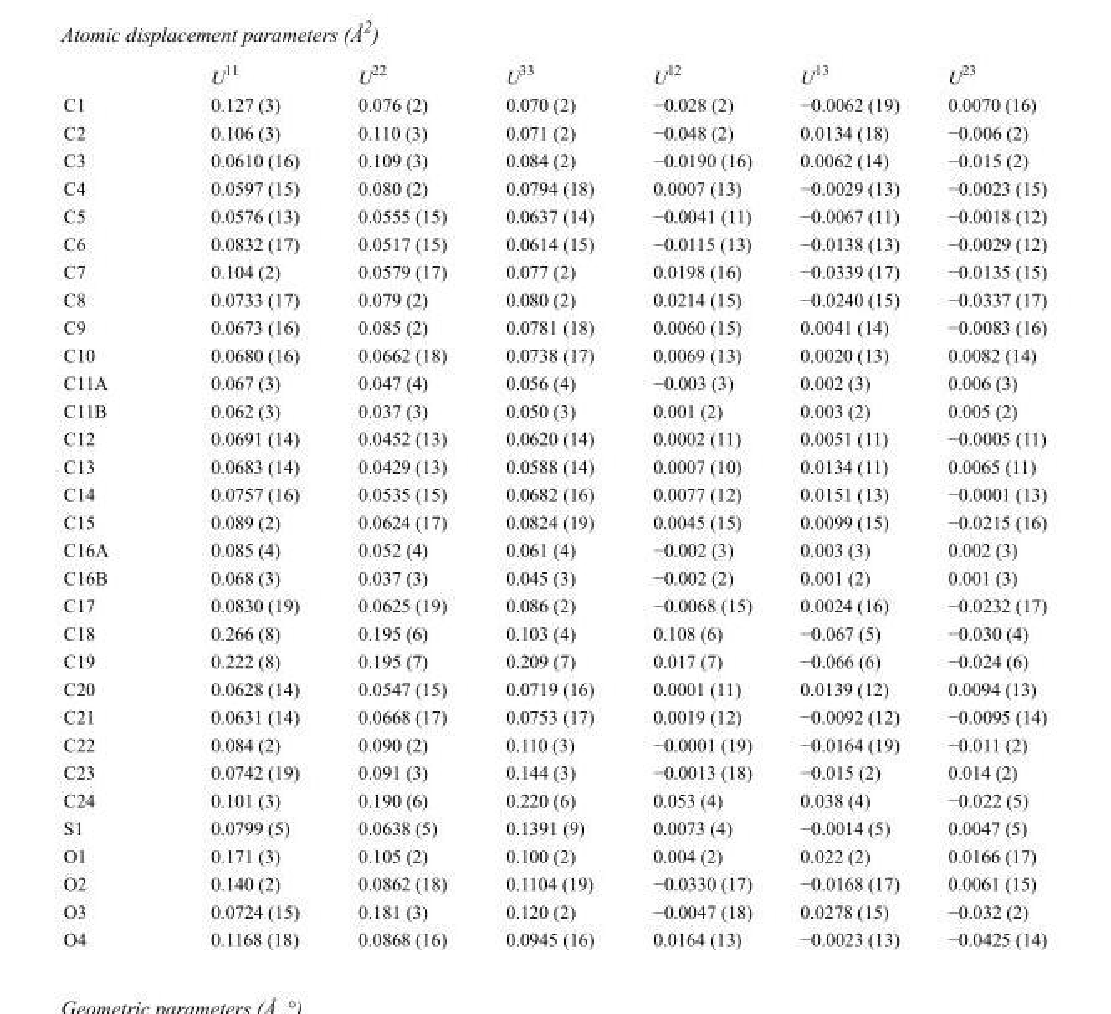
<table><thead><tr><td></td><td>U<sup>11</sup></td><td>U<sup>22</sup></td><td>U<sup>33</sup></td><td>U<sup>12</sup></td><td>U<sup>13</sup></td><td>U<sup>23</sup></td></tr></thead><tbody><tr><td>C1</td><td>0.127 (3)</td><td>0.076 (2)</td><td>0.070 (2)</td><td>−0.028 (2)</td><td>−0.0062 (19)</td><td>0.0070 (16)</td></tr><tr><td>C2</td><td>0.106 (3)</td><td>0.110 (3)</td><td>0.071 (2)</td><td>−0.048 (2)</td><td>0.0134 (18)</td><td>−0.006 (2)</td></tr><tr><td>C3</td><td>0.0610 (16)</td><td>0.109 (3)</td><td>0.084 (2)</td><td>−0.0190 (16)</td><td>0.0062 (14)</td><td>−0.015 (2)</td></tr><tr><td>C4</td><td>0.0597 (15)</td><td>0.080 (2)</td><td>0.0794 (18)</td><td>0.0007 (13)</td><td>−0.0029 (13)</td><td>−0.0023 (15)</td></tr><tr><td>C5</td><td>0.0576 (13)</td><td>0.0555 (15)</td><td>0.0637 (14)</td><td>−0.0041 (11)</td><td>−0.0067 (11)</td><td>−0.0018 (12)</td></tr><tr><td>C6</td><td>0.0832 (17)</td><td>0.0517 (15)</td><td>0.0614 (15)</td><td>−0.0115 (13)</td><td>−0.0138 (13)</td><td>−0.0029 (12)</td></tr><tr><td>C7</td><td>0.104 (2)</td><td>0.0579 (17)</td><td>0.077 (2)</td><td>0.0198 (16)</td><td>−0.0339 (17)</td><td>−0.0135 (15)</td></tr><tr><td>C8</td><td>0.0733 (17)</td><td>0.079 (2)</td><td>0.080 (2)</td><td>0.0214 (15)</td><td>−0.0240 (15)</td><td>−0.0337 (17)</td></tr><tr><td>C9</td><td>0.0673 (16)</td><td>0.085 (2)</td><td>0.0781 (18)</td><td>0.0060 (15)</td><td>0.0041 (14)</td><td>−0.0083 (16)</td></tr><tr><td>C10</td><td>0.0680 (16)</td><td>0.0662 (18)</td><td>0.0738 (17)</td><td>0.0069 (13)</td><td>0.0020 (13)</td><td>0.0082 (14)</td></tr><tr><td>C11A</td><td>0.067 (3)</td><td>0.047 (4)</td><td>0.056 (4)</td><td>−0.003 (3)</td><td>0.002 (3)</td><td>0.006 (3)</td></tr><tr><td>C11B</td><td>0.062 (3)</td><td>0.037 (3)</td><td>0.050 (3)</td><td>0.001 (2)</td><td>0.003 (2)</td><td>0.005 (2)</td></tr><tr><td>C12</td><td>0.0691 (14)</td><td>0.0452 (13)</td><td>0.0620 (14)</td><td>0.0002 (11)</td><td>0.0051 (11)</td><td>−0.0005 (11)</td></tr><tr><td>C13</td><td>0.0683 (14)</td><td>0.0429 (13)</td><td>0.0588 (14)</td><td>0.0007 (10)</td><td>0.0134 (11)</td><td>0.0065 (11)</td></tr><tr><td>C14</td><td>0.0757 (16)</td><td>0.0535 (15)</td><td>0.0682 (16)</td><td>0.0077 (12)</td><td>0.0151 (13)</td><td>−0.0001 (13)</td></tr><tr><td>C15</td><td>0.089 (2)</td><td>0.0624 (17)</td><td>0.0824 (19)</td><td>0.0045 (15)</td><td>0.0099 (15)</td><td>−0.0215 (16)</td></tr><tr><td>C16A</td><td>0.085 (4)</td><td>0.052 (4)</td><td>0.061 (4)</td><td>−0.002 (3)</td><td>0.003 (3)</td><td>0.002 (3)</td></tr><tr><td>C16B</td><td>0.068 (3)</td><td>0.037 (3)</td><td>0.045 (3)</td><td>−0.002 (2)</td><td>0.001 (2)</td><td>0.001 (3)</td></tr><tr><td>C17</td><td>0.0830 (19)</td><td>0.0625 (19)</td><td>0.086 (2)</td><td>−0.0068 (15)</td><td>0.0024 (16)</td><td>−0.0232 (17)</td></tr><tr><td>C18</td><td>0.266 (8)</td><td>0.195 (6)</td><td>0.103 (4)</td><td>0.108 (6)</td><td>−0.067 (5)</td><td>−0.030 (4)</td></tr><tr><td>C19</td><td>0.222 (8)</td><td>0.195 (7)</td><td>0.209 (7)</td><td>0.017 (7)</td><td>−0.066 (6)</td><td>−0.024 (6)</td></tr><tr><td>C20</td><td>0.0628 (14)</td><td>0.0547 (15)</td><td>0.0719 (16)</td><td>0.0001 (11)</td><td>0.0139 (12)</td><td>0.0094 (13)</td></tr><tr><td>C21</td><td>0.0631 (14)</td><td>0.0668 (17)</td><td>0.0753 (17)</td><td>0.0019 (12)</td><td>−0.0092 (12)</td><td>−0.0095 (14)</td></tr><tr><td>C22</td><td>0.084 (2)</td><td>0.090 (2)</td><td>0.110 (3)</td><td>−0.0001 (19)</td><td>−0.0164 (19)</td><td>−0.011 (2)</td></tr><tr><td>C23</td><td>0.0742 (19)</td><td>0.091 (3)</td><td>0.144 (3)</td><td>−0.0013 (18)</td><td>−0.015 (2)</td><td>0.014 (2)</td></tr><tr><td>C24</td><td>0.101 (3)</td><td>0.190 (6)</td><td>0.220 (6)</td><td>0.053 (4)</td><td>0.038 (4)</td><td>−0.022 (5)</td></tr><tr><td>S1</td><td>0.0799 (5)</td><td>0.0638 (5)</td><td>0.1391 (9)</td><td>0.0073 (4)</td><td>−0.0014 (5)</td><td>0.0047 (5)</td></tr><tr><td>O1</td><td>0.171 (3)</td><td>0.105 (2)</td><td>0.100 (2)</td><td>0.004 (2)</td><td>0.022 (2)</td><td>0.0166 (17)</td></tr><tr><td>O2</td><td>0.140 (2)</td><td>0.0862 (18)</td><td>0.1104 (19)</td><td>−0.0330 (17)</td><td>−0.0168 (17)</td><td>0.0061 (15)</td></tr><tr><td>O3</td><td>0.0724 (15)</td><td>0.181 (3)</td><td>0.120 (2)</td><td>−0.0047 (18)</td><td>0.0278 (15)</td><td>−0.032 (2)</td></tr><tr><td>O4</td><td>0.1168 (18)</td><td>0.0868 (16)</td><td>0.0945 (16)</td><td>0.0164 (13)</td><td>−0.0023 (13)</td><td>−0.0425 (14)</td></tr></tbody></table>